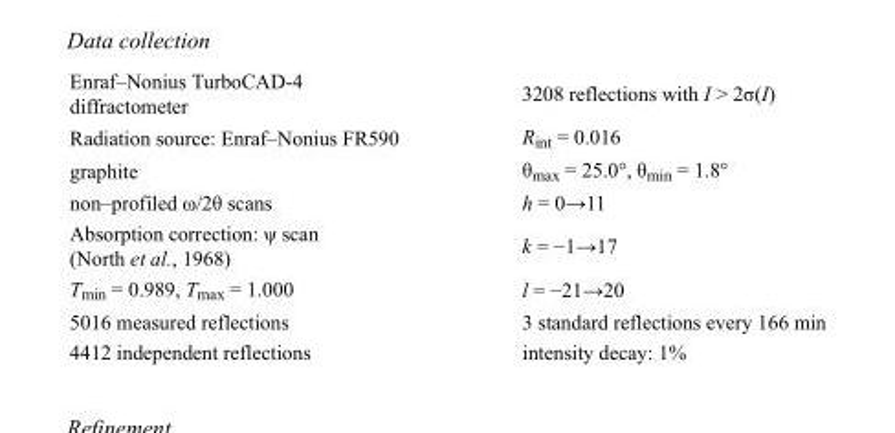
<table><tbody><tr><td>Enraf–Nonius TurboCAD-4 diffractometer</td><td>3208 reflections with I &gt; 2σ(I)</td></tr><tr><td>Radiation source: Enraf–Nonius FR590</td><td>R<sub>int</sub> = 0.016</td></tr><tr><td>graphite</td><td>θ<sub>max</sub> = 25.0°, θ<sub>min</sub> = 1.8°</td></tr><tr><td>non–profiled ω/2θ scans</td><td>h = 0→11</td></tr><tr><td>Absorption correction: ψ scan (North et al., 1968)</td><td>k = −1→17</td></tr><tr><td>T<sub>min</sub> = 0.989, T<sub>max</sub> = 1.000</td><td>l = −21→20</td></tr><tr><td>5016 measured reflections</td><td>3 standard reflections every 166 min</td></tr><tr><td>4412 independent reflections</td><td>intensity decay: 1%</td></tr></tbody></table>